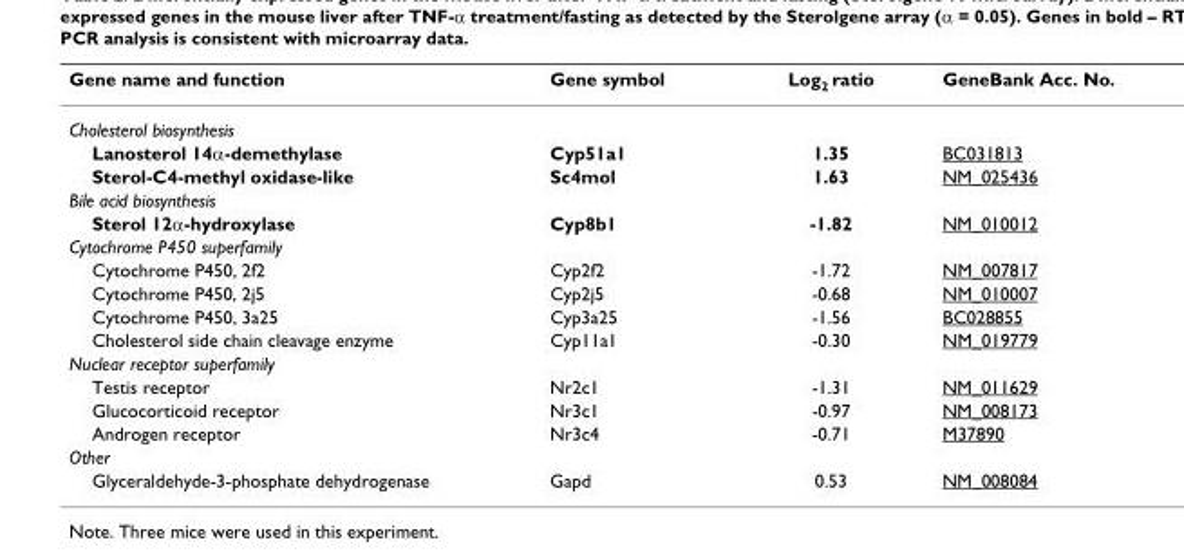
<table><thead><tr><td>Gene name and function</td><td>Gene symbol</td><td>Log<sub>2</sub> ratio</td><td>GeneBank Acc. No.</td></tr></thead><tbody><tr><td colspan="4">Cholesterol biosynthesis</td></tr><tr><td>Lanosterol 14α-demethylase</td><td>Cyp51a1</td><td>1.35</td><td>BC031813</td></tr><tr><td>Sterol-C4-methyl oxidase-like</td><td>Sc4mol</td><td>1.63</td><td>NM_025436</td></tr><tr><td colspan="4">Bile acid biosynthesis</td></tr><tr><td>Sterol 12α-hydroxylase</td><td>Cyp8b1</td><td>-1.82</td><td>NM_010012</td></tr><tr><td colspan="4">Cytochrome P450 superfamily</td></tr><tr><td>Cytochrome P450, 2f2</td><td>Cyp2f2</td><td>-1.72</td><td>NM_007817</td></tr><tr><td>Cytochrome P450, 2j5</td><td>Cyp2j5</td><td>-0.68</td><td>NM_010007</td></tr><tr><td>Cytochrome P450, 3a25</td><td>Cyp3a25</td><td>-1.56</td><td>BC028855</td></tr><tr><td>Cholesterol side chain cleavage enzyme</td><td>Cyp11a1</td><td>-0.30</td><td>NM_019779</td></tr><tr><td colspan="4">Nuclear receptor superfamily</td></tr><tr><td>Testis receptor</td><td>Nr2c1</td><td>-1.31</td><td>NM_011629</td></tr><tr><td>Glucocorticoid receptor</td><td>Nr3c1</td><td>-0.97</td><td>NM_008173</td></tr><tr><td>Androgen receptor</td><td>Nr3c4</td><td>-0.71</td><td>M37890</td></tr><tr><td colspan="4">Other</td></tr><tr><td>Glyceraldehyde-3-phosphate dehydrogenase</td><td>Gapd</td><td>0.53</td><td>NM_008084</td></tr></tbody></table>